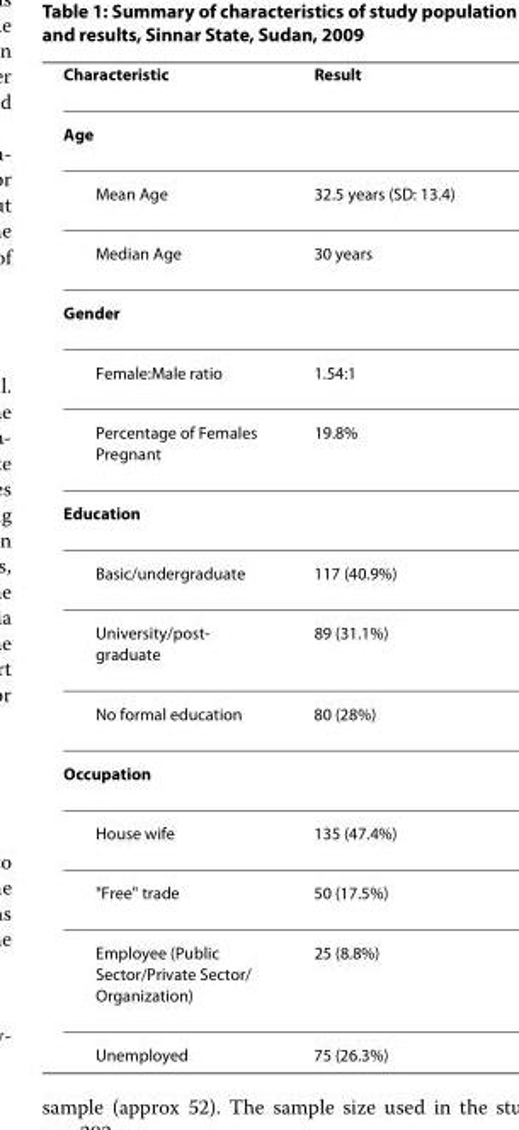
<table><thead><tr><td>Characteristic</td><td>Result</td></tr></thead><tbody><tr><td colspan="2">Age</td></tr><tr><td>Mean Age</td><td>32.5 years (SD: 13.4)</td></tr><tr><td>Median Age</td><td>30 years</td></tr><tr><td colspan="2">Gender</td></tr><tr><td>Female:Male ratio</td><td>1.54:1</td></tr><tr><td>Percentage of Females Pregnant</td><td>19.8%</td></tr><tr><td colspan="2">Education</td></tr><tr><td>Basic/undergraduate</td><td>117 (40.9%)</td></tr><tr><td>University/post- graduate</td><td>89 (31.1%)</td></tr><tr><td>No formal education</td><td>80 (28%)</td></tr><tr><td colspan="2">Occupation</td></tr><tr><td>House wife</td><td>135 (47.4%)</td></tr><tr><td>&quot;Free&quot; trade</td><td>50 (17.5%)</td></tr><tr><td>Employee (Public Sector/Private Sector/ Organization)</td><td>25 (8.8%)</td></tr><tr><td>Unemployed</td><td>75 (26.3%)</td></tr></tbody></table>